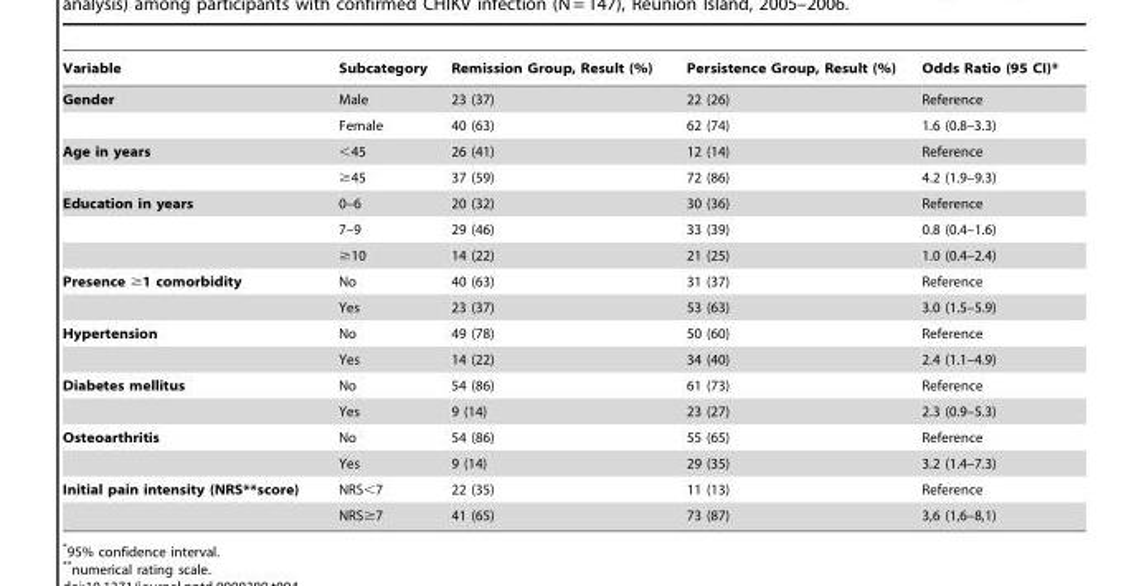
<table><thead><tr><td>Variable</td><td>Subcategory</td><td>Remission Group, Result (%)</td><td>Persistence Group, Result (%)</td><td>Odds Ratio (95 CI)*</td></tr></thead><tbody><tr><td rowspan="2">Gender</td><td>Male</td><td>23 (37)</td><td>22 (26)</td><td>Reference</td></tr><tr><td>Female</td><td>40 (63)</td><td>62 (74)</td><td>1.6 (0.8–3.3)</td></tr><tr><td rowspan="2">Age in years</td><td>&lt;45</td><td>26 (41)</td><td>12 (14)</td><td>Reference</td></tr><tr><td>≥45</td><td>37 (59)</td><td>72 (86)</td><td>4.2 (1.9–9.3)</td></tr><tr><td rowspan="3">Education in years</td><td>0–6</td><td>20 (32)</td><td>30 (36)</td><td>Reference</td></tr><tr><td>7–9</td><td>29 (46)</td><td>33 (39)</td><td>0.8 (0.4–1.6)</td></tr><tr><td>≥10</td><td>14 (22)</td><td>21 (25)</td><td>1.0 (0.4–2.4)</td></tr><tr><td rowspan="2">Presence ≥1 comorbidity</td><td>No</td><td>40 (63)</td><td>31 (37)</td><td>Reference</td></tr><tr><td>Yes</td><td>23 (37)</td><td>53 (63)</td><td>3.0 (1.5–5.9)</td></tr><tr><td rowspan="2">Hypertension</td><td>No</td><td>49 (78)</td><td>50 (60)</td><td>Reference</td></tr><tr><td>Yes</td><td>14 (22)</td><td>34 (40)</td><td>2.4 (1.1–4.9)</td></tr><tr><td rowspan="2">Diabetes mellitus</td><td>No</td><td>54 (86)</td><td>61 (73)</td><td>Reference</td></tr><tr><td>Yes</td><td>9 (14)</td><td>23 (27)</td><td>2.3 (0.9–5.3)</td></tr><tr><td rowspan="2">Osteoarthritis</td><td>No</td><td>54 (86)</td><td>55 (65)</td><td>Reference</td></tr><tr><td>Yes</td><td>9 (14)</td><td>29 (35)</td><td>3.2 (1.4–7.3)</td></tr><tr><td rowspan="2">Initial pain intensity (NRS**score)</td><td>NRS&lt;7</td><td>22 (35)</td><td>11 (13)</td><td>Reference</td></tr><tr><td>NRS≥7</td><td>41 (65)</td><td>73 (87)</td><td>3,6 (1,6–8,1)</td></tr></tbody></table>